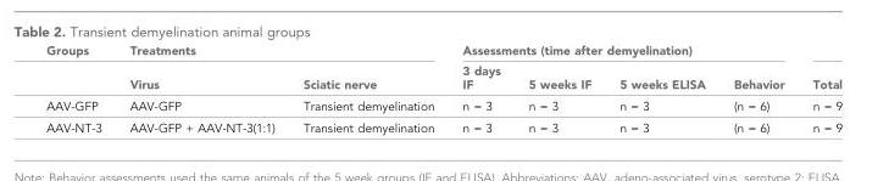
<table><thead><tr><td rowspan="2">Groups</td><td colspan="2">Treatments</td><td colspan="4">Assessments (time after demyelination)</td><td rowspan="2">Total</td></tr><tr><td>Virus</td><td>Sciatic nerve</td><td>3 days IF</td><td>5 weeks IF</td><td>5 weeks ELISA</td><td>Behavior</td></tr></thead><tbody><tr><td>AAV-GFP</td><td>AAV-GFP</td><td>Transient demyelination</td><td>n = 3</td><td>n = 3</td><td>n = 3</td><td>(n = 6)</td><td>n = 9</td></tr><tr><td>AAV-NT-3</td><td>AAV-GFP + AAV-NT-3(1:1)</td><td>Transient demyelination</td><td>n = 3</td><td>n = 3</td><td>n = 3</td><td>(n = 6)</td><td>n = 9</td></tr></tbody></table>